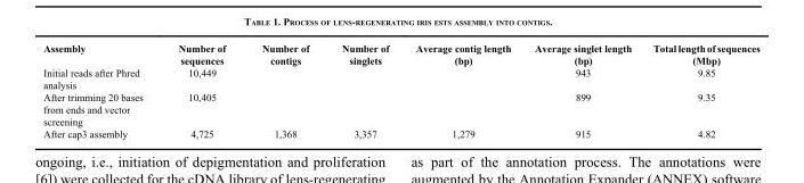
<table><thead><tr><td>Assembly</td><td>Number of sequences</td><td>Number of contigs</td><td>Number of singlets</td><td>Average contig length (bp)</td><td>Average singlet length (bp)</td><td>Total length of sequences (Mbp)</td></tr></thead><tbody><tr><td>Initial reads after Phred analysis</td><td>10,449</td><td></td><td></td><td></td><td>943</td><td>9.85</td></tr><tr><td>After trimming 20 bases from ends and vector screening</td><td>10,405</td><td></td><td></td><td></td><td>899</td><td>9.35</td></tr><tr><td>After cap3 assembly</td><td>4,725</td><td>1,368</td><td>3,357</td><td>1,279</td><td>915</td><td>4.82</td></tr></tbody></table>